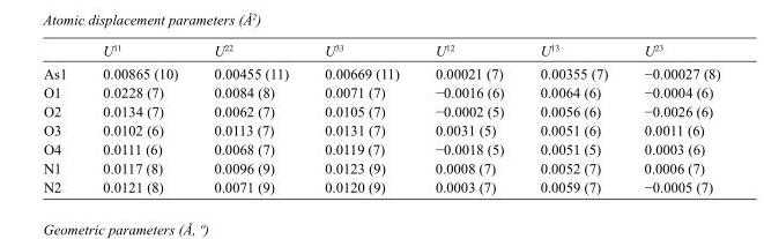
<table><thead><tr><td></td><td>U<sup>11</sup></td><td>U<sup>22</sup></td><td>U<sup>33</sup></td><td>U<sup>12</sup></td><td>U<sup>13</sup></td><td>U<sup>23</sup></td></tr></thead><tbody><tr><td>As1</td><td>0.00865 (10)</td><td>0.00455 (11)</td><td>0.00669 (11)</td><td>0.00021 (7)</td><td>0.00355 (7)</td><td>−0.00027 (8)</td></tr><tr><td>O1</td><td>0.0228 (7)</td><td>0.0084 (8)</td><td>0.0071 (7)</td><td>−0.0016 (6)</td><td>0.0064 (6)</td><td>−0.0004 (6)</td></tr><tr><td>O2</td><td>0.0134 (7)</td><td>0.0062 (7)</td><td>0.0105 (7)</td><td>−0.0002 (5)</td><td>0.0056 (6)</td><td>−0.0026 (6)</td></tr><tr><td>O3</td><td>0.0102 (6)</td><td>0.0113 (7)</td><td>0.0131 (7)</td><td>0.0031 (5)</td><td>0.0051 (6)</td><td>0.0011 (6)</td></tr><tr><td>O4</td><td>0.0111 (6)</td><td>0.0068 (7)</td><td>0.0119 (7)</td><td>−0.0018 (5)</td><td>0.0051 (5)</td><td>0.0003 (6)</td></tr><tr><td>N1</td><td>0.0117 (8)</td><td>0.0096 (9)</td><td>0.0123 (9)</td><td>0.0008 (7)</td><td>0.0052 (7)</td><td>0.0006 (7)</td></tr><tr><td>N2</td><td>0.0121 (8)</td><td>0.0071 (9)</td><td>0.0120 (9)</td><td>0.0003 (7)</td><td>0.0059 (7)</td><td>−0.0005 (7)</td></tr></tbody></table>